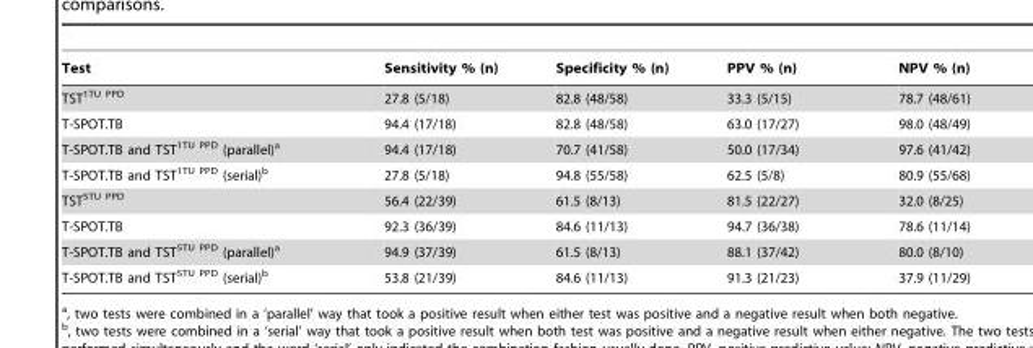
<table><thead><tr><td>Test</td><td>Sensitivity % (n)</td><td>Specificity % (n)</td><td>PPV % (n)</td><td>NPV % (n)</td></tr></thead><tbody><tr><td>TST<sup>1TU PPD</sup></td><td>27.8 (5/18)</td><td>82.8 (48/58)</td><td>33.3 (5/15)</td><td>78.7 (48/61)</td></tr><tr><td>T-SPOT.TB</td><td>94.4 (17/18)</td><td>82.8 (48/58)</td><td>63.0 (17/27)</td><td>98.0 (48/49)</td></tr><tr><td>T-SPOT.TB and TST<sup>1TU PPD</sup> (parallel)<sup>a</sup></td><td>94.4 (17/18)</td><td>70.7 (41/58)</td><td>50.0 (17/34)</td><td>97.6 (41/42)</td></tr><tr><td>T-SPOT.TB and TST<sup>1TU PPD</sup> (serial)<sup>b</sup></td><td>27.8 (5/18)</td><td>94.8 (55/58)</td><td>62.5 (5/8)</td><td>80.9 (55/68)</td></tr><tr><td>TST<sup>5TU PPD</sup></td><td>56.4 (22/39)</td><td>61.5 (8/13)</td><td>81.5 (22/27)</td><td>32.0 (8/25)</td></tr><tr><td>T-SPOT.TB</td><td>92.3 (36/39)</td><td>84.6 (11/13)</td><td>94.7 (36/38)</td><td>78.6 (11/14)</td></tr><tr><td>T-SPOT.TB and TST<sup>5TU PPD</sup> (parallel)<sup>a</sup></td><td>94.9 (37/39)</td><td>61.5 (8/13)</td><td>88.1 (37/42)</td><td>80.0 (8/10)</td></tr><tr><td>T-SPOT.TB and TST<sup>5TU PPD</sup> (serial)<sup>b</sup></td><td>53.8 (21/39)</td><td>84.6 (11/13)</td><td>91.3 (21/23)</td><td>37.9 (11/29)</td></tr></tbody></table>